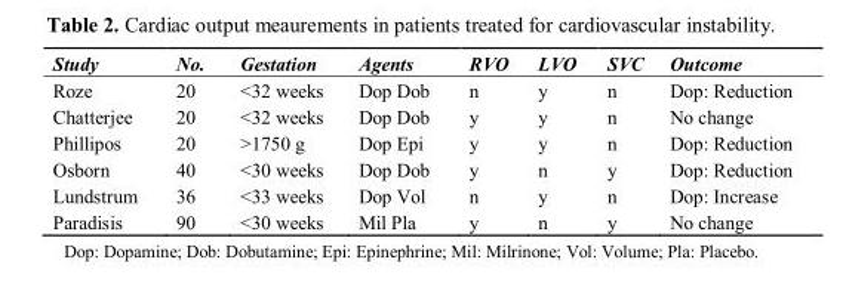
<table><thead><tr><td>Study</td><td>No.</td><td>Gestation</td><td>Agents</td><td>RVO</td><td>LVO</td><td>SVC</td><td>Outcome</td></tr></thead><tbody><tr><td>Roze</td><td>20</td><td>&lt;32 weeks</td><td>Dop Dob</td><td>n</td><td>y</td><td>n</td><td>Dop: Reduction</td></tr><tr><td>Chatterjee</td><td>20</td><td>&lt;32 weeks</td><td>Dop Dob</td><td>y</td><td>y</td><td>n</td><td>No change</td></tr><tr><td>Phillipos</td><td>20</td><td>&gt;1750 g</td><td>Dop Epi</td><td>y</td><td>y</td><td>n</td><td>Dop: Reduction</td></tr><tr><td>Osborn</td><td>40</td><td>&lt;30 weeks</td><td>Dop Dob</td><td>y</td><td>n</td><td>y</td><td>Dop: Reduction</td></tr><tr><td>Lundstrum</td><td>36</td><td>&lt;33 weeks</td><td>Dop Vol</td><td>n</td><td>y</td><td>n</td><td>Dop: Increase</td></tr><tr><td>Paradisis</td><td>90</td><td>&lt;30 weeks</td><td>Mil Pla</td><td>y</td><td>n</td><td>y</td><td>No change</td></tr></tbody></table>